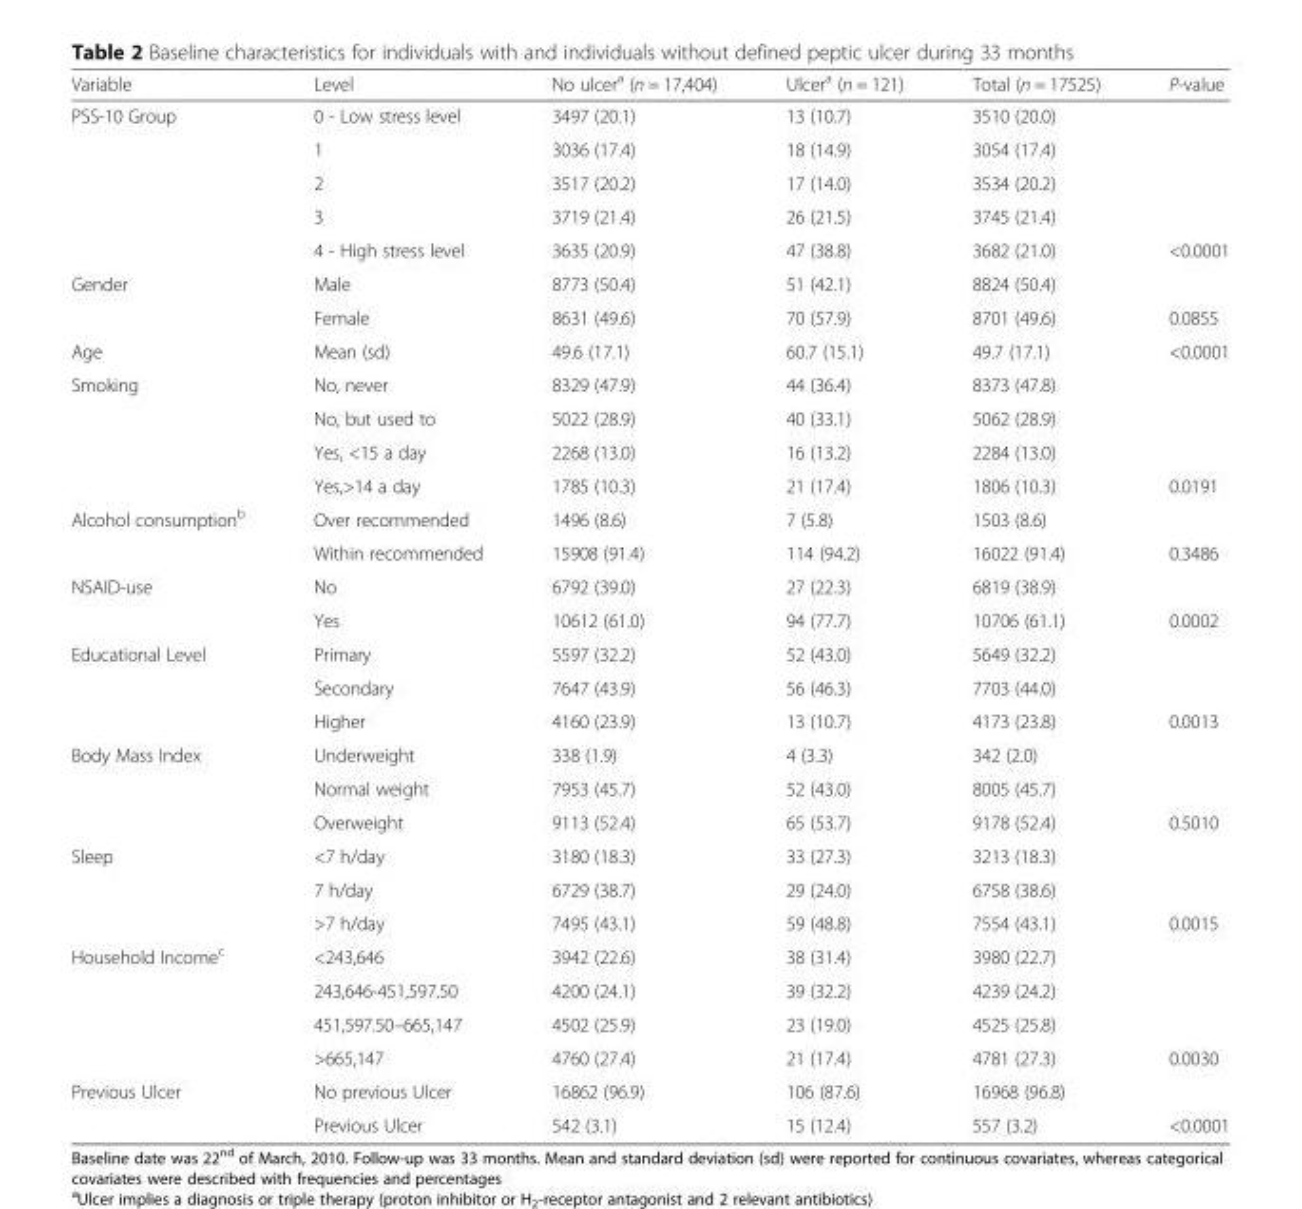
<table><thead><tr><td>Variable</td><td>Level</td><td>No ulcer<sup>a</sup> (n = 17,404)</td><td>Ulcer<sup>a</sup> (n = 121)</td><td>Total (n = 17525)</td><td>P-value</td></tr></thead><tbody><tr><td rowspan="5">PSS-10 Group</td><td>0 - Low stress level</td><td>3497 (20.1)</td><td>13 (10.7)</td><td>3510 (20.0)</td><td></td></tr><tr><td>1</td><td>3036 (17.4)</td><td>18 (14.9)</td><td>3054 (17.4)</td><td></td></tr><tr><td>2</td><td>3517 (20.2)</td><td>17 (14.0)</td><td>3534 (20.2)</td><td></td></tr><tr><td>3</td><td>3719 (21.4)</td><td>26 (21.5)</td><td>3745 (21.4)</td><td></td></tr><tr><td>4 - High stress level</td><td>3635 (20.9)</td><td>47 (38.8)</td><td>3682 (21.0)</td><td>&lt;0.0001</td></tr><tr><td rowspan="2">Gender</td><td>Male</td><td>8773 (50.4)</td><td>51 (42.1)</td><td>8824 (50.4)</td><td></td></tr><tr><td>Female</td><td>8631 (49.6)</td><td>70 (57.9)</td><td>8701 (49.6)</td><td>0.0855</td></tr><tr><td>Age</td><td>Mean (sd)</td><td>49.6 (17.1)</td><td>60.7 (15.1)</td><td>49.7 (17.1)</td><td>&lt;0.0001</td></tr><tr><td rowspan="4">Smoking</td><td>No, never</td><td>8329 (47.9)</td><td>44 (36.4)</td><td>8373 (47.8)</td><td></td></tr><tr><td>No, but used to</td><td>5022 (28.9)</td><td>40 (33.1)</td><td>5062 (28.9)</td><td></td></tr><tr><td>Yes, &lt;15 a day</td><td>2268 (13.0)</td><td>16 (13.2)</td><td>2284 (13.0)</td><td></td></tr><tr><td>Yes,&gt;14 a day</td><td>1785 (10.3)</td><td>21 (17.4)</td><td>1806 (10.3)</td><td>0.0191</td></tr><tr><td rowspan="2">Alcohol consumption<sup>b</sup></td><td>Over recommended</td><td>1496 (8.6)</td><td>7 (5.8)</td><td>1503 (8.6)</td><td></td></tr><tr><td>Within recommended</td><td>15908 (91.4)</td><td>114 (94.2)</td><td>16022 (91.4)</td><td>0.3486</td></tr><tr><td rowspan="2">NSAID-use</td><td>No</td><td>6792 (39.0)</td><td>27 (22.3)</td><td>6819 (38.9)</td><td></td></tr><tr><td>Yes</td><td>10612 (61.0)</td><td>94 (77.7)</td><td>10706 (61.1)</td><td>0.0002</td></tr><tr><td rowspan="3">Educational Level</td><td>Primary</td><td>5597 (32.2)</td><td>52 (43.0)</td><td>5649 (32.2)</td><td></td></tr><tr><td>Secondary</td><td>7647 (43.9)</td><td>56 (46.3)</td><td>7703 (44.0)</td><td></td></tr><tr><td>Higher</td><td>4160 (23.9)</td><td>13 (10.7)</td><td>4173 (23.8)</td><td>0.0013</td></tr><tr><td rowspan="3">Body Mass Index</td><td>Underweight</td><td>338 (1.9)</td><td>4 (3.3)</td><td>342 (2.0)</td><td></td></tr><tr><td>Normal weight</td><td>7953 (45.7)</td><td>52 (43.0)</td><td>8005 (45.7)</td><td></td></tr><tr><td>Overweight</td><td>9113 (52.4)</td><td>65 (53.7)</td><td>9178 (52.4)</td><td>0.5010</td></tr><tr><td rowspan="3">Sleep</td><td>&lt;7 h/day</td><td>3180 (18.3)</td><td>33 (27.3)</td><td>3213 (18.3)</td><td></td></tr><tr><td>7 h/day</td><td>6729 (38.7)</td><td>29 (24.0)</td><td>6758 (38.6)</td><td></td></tr><tr><td>&gt;7 h/day</td><td>7495 (43.1)</td><td>59 (48.8)</td><td>7554 (43.1)</td><td>0.0015</td></tr><tr><td rowspan="4">Household Income<sup>c</sup></td><td>&lt;243,646</td><td>3942 (22.6)</td><td>38 (31.4)</td><td>3980 (22.7)</td><td></td></tr><tr><td>243,646-451,597.50</td><td>4200 (24.1)</td><td>39 (32.2)</td><td>4239 (24.2)</td><td></td></tr><tr><td>451,597.50–665,147</td><td>4502 (25.9)</td><td>23 (19.0)</td><td>4525 (25.8)</td><td></td></tr><tr><td>&gt;665,147</td><td>4760 (27.4)</td><td>21 (17.4)</td><td>4781 (27.3)</td><td>0.0030</td></tr><tr><td rowspan="2">Previous Ulcer</td><td>No previous Ulcer</td><td>16862 (96.9)</td><td>106 (87.6)</td><td>16968 (96.8)</td><td></td></tr><tr><td>Previous Ulcer</td><td>542 (3.1)</td><td>15 (12.4)</td><td>557 (3.2)</td><td>&lt;0.0001</td></tr></tbody></table>